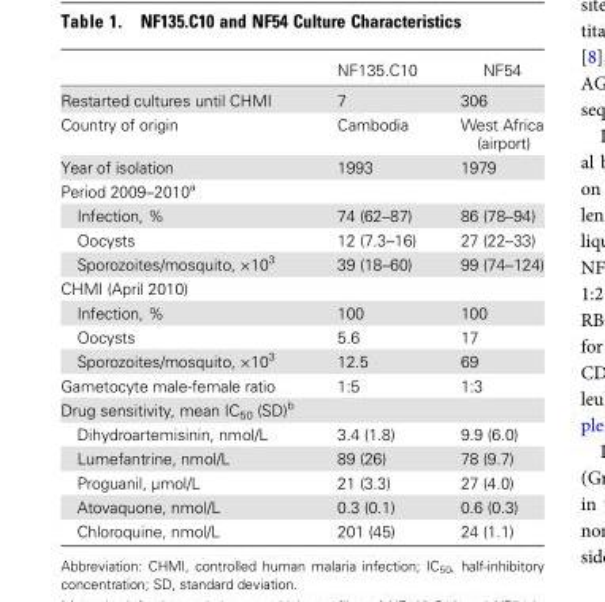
<table><thead><tr><td></td><td>NF135.C10</td><td>NF54</td></tr></thead><tbody><tr><td>Restarted cultures until CHMI</td><td>7</td><td>306</td></tr><tr><td>Country of origin</td><td>Cambodia</td><td>West Africa (airport)</td></tr><tr><td>Year of isolation</td><td>1993</td><td>1979</td></tr><tr><td colspan="3">Period 2009–2010<sup>a</sup></td></tr><tr><td>Infection, %</td><td>74 (62–87)</td><td>86 (78–94)</td></tr><tr><td>Oocysts</td><td>12 (7.3–16)</td><td>27 (22–33)</td></tr><tr><td>Sporozoites/mosquito, ×10<sup>3</sup></td><td>39 (18–60)</td><td>99 (74–124)</td></tr><tr><td colspan="3">CHMI (April 2010)</td></tr><tr><td>Infection, %</td><td>100</td><td>100</td></tr><tr><td>Oocysts</td><td>5.6</td><td>17</td></tr><tr><td>Sporozoites/mosquito, ×10<sup>3</sup></td><td>12.5</td><td>69</td></tr><tr><td>Gametocyte male-female ratio</td><td>1:5</td><td>1:3</td></tr><tr><td colspan="3">Drug sensitivity, mean IC<sub>50</sub> (SD)<sup>b</sup></td></tr><tr><td>Dihydroartemisinin, nmol/L</td><td>3.4 (1.8)</td><td>9.9 (6.0)</td></tr><tr><td>Lumefantrine, nmol/L</td><td>89 (26)</td><td>78 (9.7)</td></tr><tr><td>Proguanil, µmol/L</td><td>21 (3.3)</td><td>27 (4.0)</td></tr><tr><td>Atovaquone, nmol/L</td><td>0.3 (0.1)</td><td>0.6 (0.3)</td></tr><tr><td>Chloroquine, nmol/L</td><td>201 (45)</td><td>24 (1.1)</td></tr></tbody></table>